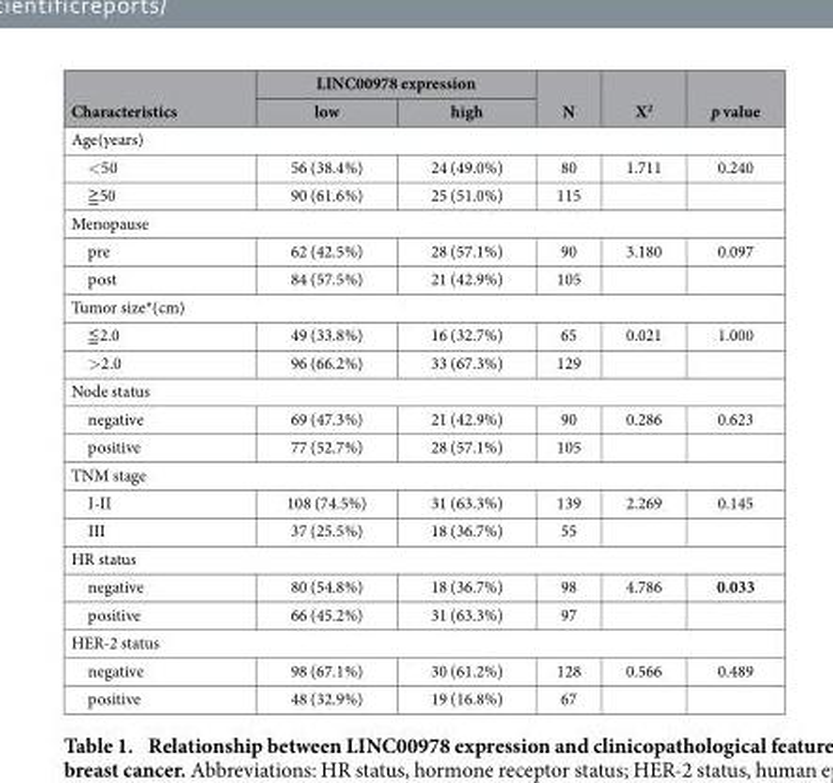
<table><thead><tr><td rowspan="2">Characteristics</td><td colspan="2">LINC00978 expression</td><td rowspan="2">N</td><td rowspan="2">X<sup>2</sup></td><td rowspan="2">p value</td></tr><tr><td>low</td><td>high</td></tr></thead><tbody><tr><td colspan="6">Age(years)</td></tr><tr><td>&lt; 50</td><td>56 (38.4%)</td><td>24 (49.0%)</td><td>80</td><td>1.711</td><td>0.240</td></tr><tr><td>≧ 50</td><td>90 (61.6%)</td><td>25 (51.0%)</td><td>115</td><td></td><td></td></tr><tr><td colspan="6">Menopause</td></tr><tr><td>pre</td><td>62 (42.5%)</td><td>28 (57.1%)</td><td>90</td><td>3.180</td><td>0.097</td></tr><tr><td>post</td><td>84 (57.5%)</td><td>21 (42.9%)</td><td>105</td><td></td><td></td></tr><tr><td colspan="6">Tumor size*(cm)</td></tr><tr><td>≦ 2.0</td><td>49 (33.8%)</td><td>16 (32.7%)</td><td>65</td><td>0.021</td><td>1.000</td></tr><tr><td>&gt; 2.0</td><td>96 (66.2%)</td><td>33 (67.3%)</td><td>129</td><td></td><td></td></tr><tr><td colspan="6">Node status</td></tr><tr><td>negative</td><td>69 (47.3%)</td><td>21 (42.9%)</td><td>90</td><td>0.286</td><td>0.623</td></tr><tr><td>positive</td><td>77 (52.7%)</td><td>28 (57.1%)</td><td>105</td><td></td><td></td></tr><tr><td colspan="6">TNM stage</td></tr><tr><td>I-II</td><td>108 (74.5%)</td><td>31 (63.3%)</td><td>139</td><td>2.269</td><td>0.145</td></tr><tr><td>III</td><td>37 (25.5%)</td><td>18 (36.7%)</td><td>55</td><td></td><td></td></tr><tr><td colspan="6">HR status</td></tr><tr><td>negative</td><td>80 (54.8%)</td><td>18 (36.7%)</td><td>98</td><td>4.786</td><td>0.033</td></tr><tr><td>positive</td><td>66 (45.2%)</td><td>31 (63.3%)</td><td>97</td><td></td><td></td></tr><tr><td colspan="6">HER-2 status</td></tr><tr><td>negative</td><td>98 (67.1%)</td><td>30 (61.2%)</td><td>128</td><td>0.566</td><td>0.489</td></tr><tr><td>positive</td><td>48 (32.9%)</td><td>19 (16.8%)</td><td>67</td><td></td><td></td></tr></tbody></table>